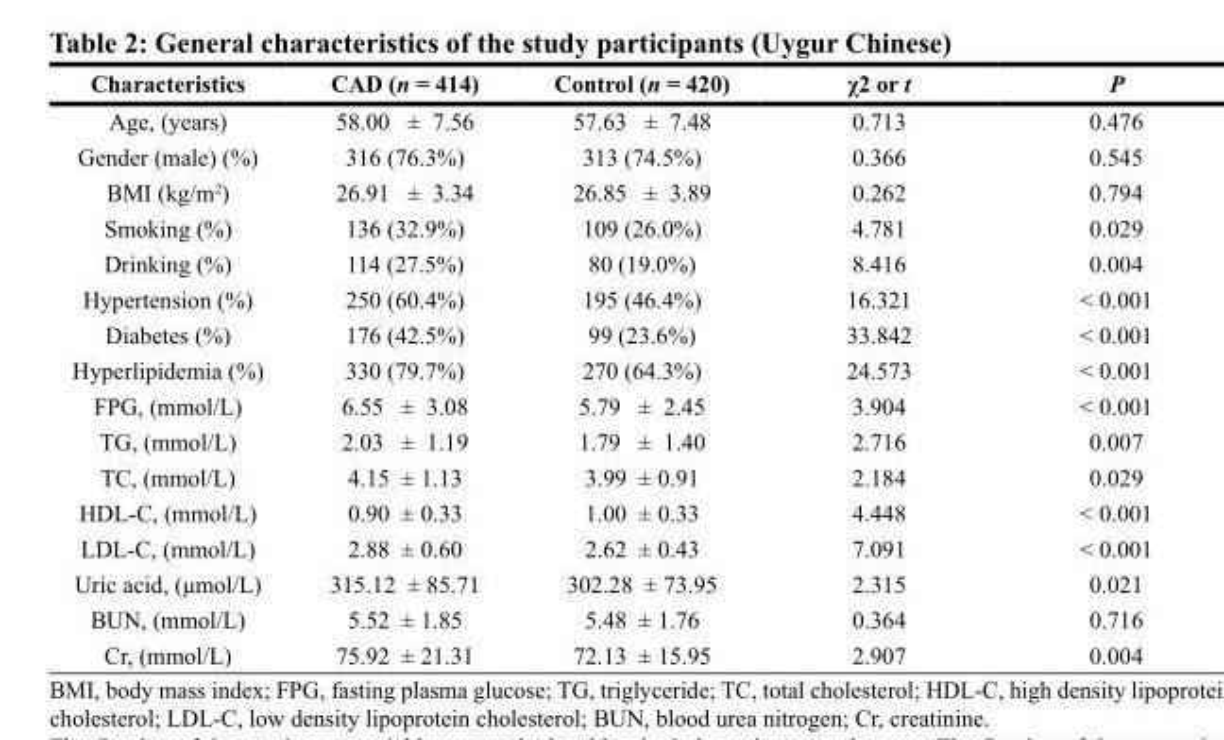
<table><thead><tr><td>Characteristics</td><td>CAD (n = 414)</td><td>Control (n = 420)</td><td>χ2 or t</td><td>P</td></tr></thead><tbody><tr><td>Age, (years)</td><td>58.00 ± 7.56</td><td>57.63 ± 7.48</td><td>0.713</td><td>0.476</td></tr><tr><td>Gender (male) (%)</td><td>316 (76.3%)</td><td>313 (74.5%)</td><td>0.366</td><td>0.545</td></tr><tr><td>BMI (kg/m<sup>2</sup>)</td><td>26.91 ± 3.34</td><td>26.85 ± 3.89</td><td>0.262</td><td>0.794</td></tr><tr><td>Smoking (%)</td><td>136 (32.9%)</td><td>109 (26.0%)</td><td>4.781</td><td>0.029</td></tr><tr><td>Drinking (%)</td><td>114 (27.5%)</td><td>80 (19.0%)</td><td>8.416</td><td>0.004</td></tr><tr><td>Hypertension (%)</td><td>250 (60.4%)</td><td>195 (46.4%)</td><td>16.321</td><td>&lt; 0.001</td></tr><tr><td>Diabetes (%)</td><td>176 (42.5%)</td><td>99 (23.6%)</td><td>33.842</td><td>&lt; 0.001</td></tr><tr><td>Hyperlipidemia (%)</td><td>330 (79.7%)</td><td>270 (64.3%)</td><td>24.573</td><td>&lt; 0.001</td></tr><tr><td>FPG, (mmol/L)</td><td>6.55 ± 3.08</td><td>5.79 ± 2.45</td><td>3.904</td><td>&lt; 0.001</td></tr><tr><td>TG, (mmol/L)</td><td>2.03 ± 1.19</td><td>1.79 ± 1.40</td><td>2.716</td><td>0.007</td></tr><tr><td>TC, (mmol/L)</td><td>4.15 ± 1.13</td><td>3.99 ± 0.91</td><td>2.184</td><td>0.029</td></tr><tr><td>HDL-C, (mmol/L)</td><td>0.90 ± 0.33</td><td>1.00 ± 0.33</td><td>4.448</td><td>&lt; 0.001</td></tr><tr><td>LDL-C, (mmol/L)</td><td>2.88 ± 0.60</td><td>2.62 ± 0.43</td><td>7.091</td><td>&lt; 0.001</td></tr><tr><td>Uric acid, (μmol/L)</td><td>315.12 ± 85.71</td><td>302.28 ± 73.95</td><td>2.315</td><td>0.021</td></tr><tr><td>BUN, (mmol/L)</td><td>5.52 ± 1.85</td><td>5.48 ± 1.76</td><td>0.364</td><td>0.716</td></tr><tr><td>Cr, (mmol/L)</td><td>75.92 ± 21.31</td><td>72.13 ± 15.95</td><td>2.907</td><td>0.004</td></tr></tbody></table>